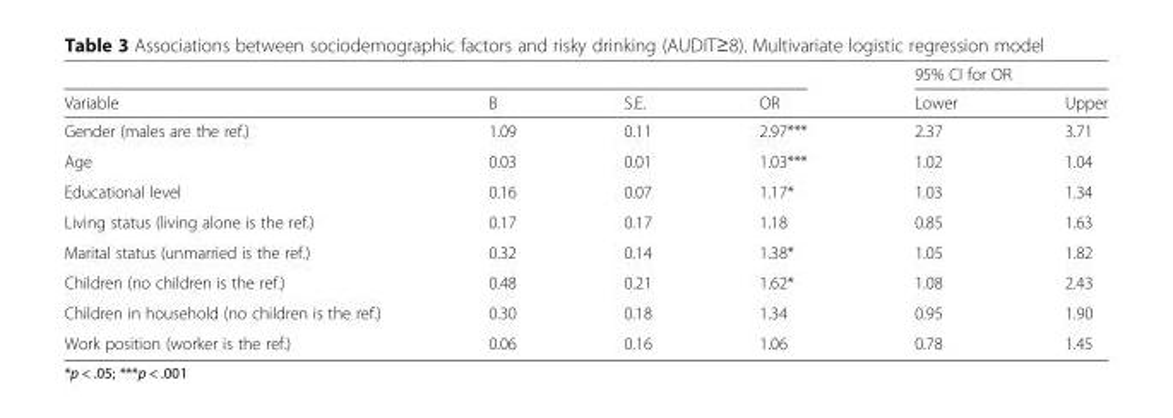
<table><thead><tr><td rowspan="2">Variable</td><td rowspan="2">B</td><td rowspan="2">S.E.</td><td rowspan="2">OR</td><td colspan="2">95% CI for OR</td></tr><tr><td>Lower</td><td>Upper</td></tr></thead><tbody><tr><td>Gender (males are the ref.)</td><td>1.09</td><td>0.11</td><td>2.97***</td><td>2.37</td><td>3.71</td></tr><tr><td>Age</td><td>0.03</td><td>0.01</td><td>1.03***</td><td>1.02</td><td>1.04</td></tr><tr><td>Educational level</td><td>0.16</td><td>0.07</td><td>1.17*</td><td>1.03</td><td>1.34</td></tr><tr><td>Living status (living alone is the ref.)</td><td>0.17</td><td>0.17</td><td>1.18</td><td>0.85</td><td>1.63</td></tr><tr><td>Marital status (unmarried is the ref.)</td><td>0.32</td><td>0.14</td><td>1.38*</td><td>1.05</td><td>1.82</td></tr><tr><td>Children (no children is the ref.)</td><td>0.48</td><td>0.21</td><td>1.62*</td><td>1.08</td><td>2.43</td></tr><tr><td>Children in household (no children is the ref.)</td><td>0.30</td><td>0.18</td><td>1.34</td><td>0.95</td><td>1.90</td></tr><tr><td>Work position (worker is the ref.)</td><td>0.06</td><td>0.16</td><td>1.06</td><td>0.78</td><td>1.45</td></tr></tbody></table>